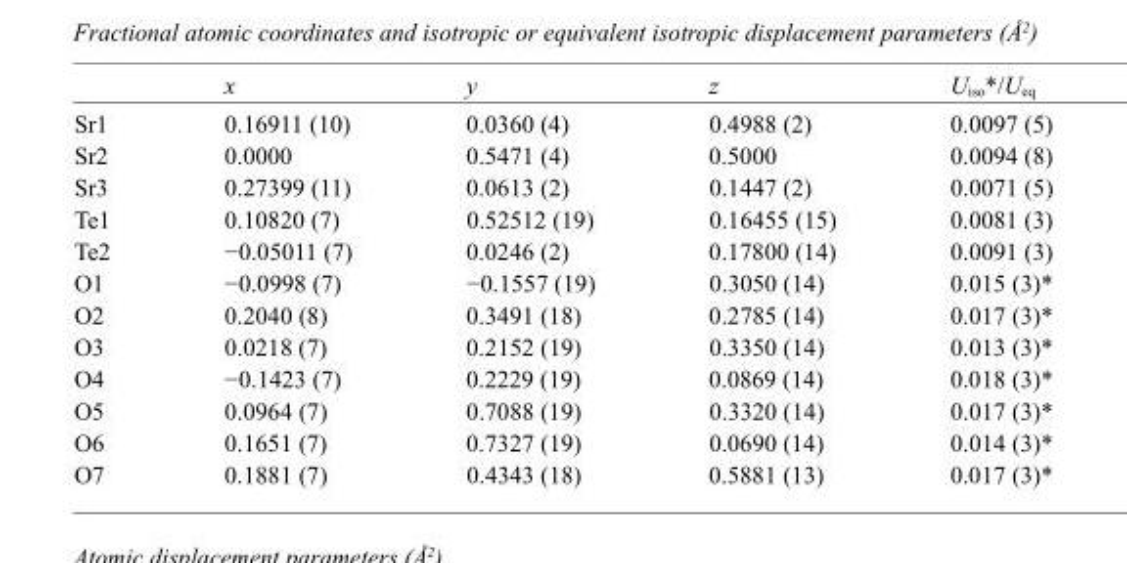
<table><thead><tr><td></td><td>x</td><td>y</td><td>z</td><td>U<sub>iso</sub>*/U<sub>eq</sub></td></tr></thead><tbody><tr><td>Sr1</td><td>0.16911 (10)</td><td>0.0360 (4)</td><td>0.4988 (2)</td><td>0.0097 (5)</td></tr><tr><td>Sr2</td><td>0.0000</td><td>0.5471 (4)</td><td>0.5000</td><td>0.0094 (8)</td></tr><tr><td>Sr3</td><td>0.27399 (11)</td><td>0.0613 (2)</td><td>0.1447 (2)</td><td>0.0071 (5)</td></tr><tr><td>Te1</td><td>0.10820 (7)</td><td>0.52512 (19)</td><td>0.16455 (15)</td><td>0.0081 (3)</td></tr><tr><td>Te2</td><td>−0.05011 (7)</td><td>0.0246 (2)</td><td>0.17800 (14)</td><td>0.0091 (3)</td></tr><tr><td>O1</td><td>−0.0998 (7)</td><td>−0.1557 (19)</td><td>0.3050 (14)</td><td>0.015 (3)*</td></tr><tr><td>O2</td><td>0.2040 (8)</td><td>0.3491 (18)</td><td>0.2785 (14)</td><td>0.017 (3)*</td></tr><tr><td>O3</td><td>0.0218 (7)</td><td>0.2152 (19)</td><td>0.3350 (14)</td><td>0.013 (3)*</td></tr><tr><td>O4</td><td>−0.1423 (7)</td><td>0.2229 (19)</td><td>0.0869 (14)</td><td>0.018 (3)*</td></tr><tr><td>O5</td><td>0.0964 (7)</td><td>0.7088 (19)</td><td>0.3320 (14)</td><td>0.017 (3)*</td></tr><tr><td>O6</td><td>0.1651 (7)</td><td>0.7327 (19)</td><td>0.0690 (14)</td><td>0.014 (3)*</td></tr><tr><td>O7</td><td>0.1881 (7)</td><td>0.4343 (18)</td><td>0.5881 (13)</td><td>0.017 (3)*</td></tr></tbody></table>